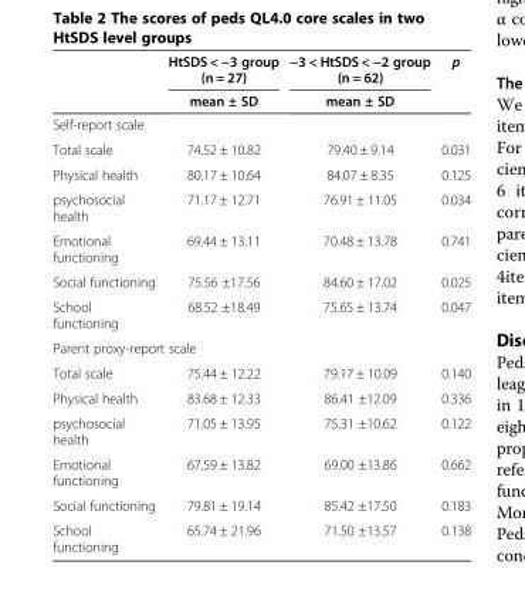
<table><thead><tr><td rowspan="2"></td><td rowspan="2">HtSDS &lt; −3 group (n = 27) mean ± SD</td><td rowspan="2">−3 &lt; HtSDS &lt; −2 group (n = 62) mean ± SD</td><td rowspan="2">p</td></tr><tr></tr></thead><tbody><tr><td colspan="4">Self-report scale</td></tr><tr><td>Total scale</td><td>74.52 ± 10.82</td><td>79.40 ± 9.14</td><td>0.031</td></tr><tr><td>Physical health</td><td>80.17 ± 10.64</td><td>84.07 ± 8.35</td><td>0.125</td></tr><tr><td>psychosocial health</td><td>71.17 ± 12.71</td><td>76.91 ± 11.05</td><td>0.034</td></tr><tr><td>Emotional functioning</td><td>69.44 ± 13.11</td><td>70.48 ± 13.78</td><td>0.741</td></tr><tr><td>Social functioning</td><td>75.56 ±17.56</td><td>84.60 ± 17.02</td><td>0.025</td></tr><tr><td>School functioning</td><td>68.52 ±18.49</td><td>75.65 ± 13.74</td><td>0.047</td></tr><tr><td colspan="4">Parent proxy-report scale</td></tr><tr><td>Total scale</td><td>75.44 ± 12.22</td><td>79.17 ± 10.09</td><td>0.140</td></tr><tr><td>Physical health</td><td>83.68 ± 12.33</td><td>86.41 ±12.09</td><td>0.336</td></tr><tr><td>psychosocial health</td><td>71.05 ± 13.95</td><td>75.31 ±10.62</td><td>0.122</td></tr><tr><td>Emotional functioning</td><td>67.59 ± 13.82</td><td>69.00 ±13.86</td><td>0.662</td></tr><tr><td>Social functioning</td><td>79.81 ± 19.14</td><td>85.42 ±17.50</td><td>0.183</td></tr><tr><td>School functioning</td><td>65.74 ± 21.96</td><td>71.50 ±13.57</td><td>0.138</td></tr></tbody></table>